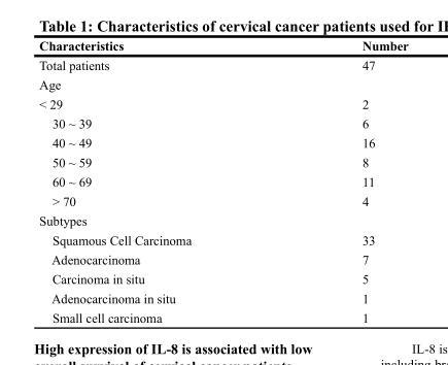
<table><thead><tr><td>Characteristics</td><td>Number</td></tr></thead><tbody><tr><td>Total patients</td><td>47</td></tr><tr><td colspan="2">Age</td></tr><tr><td>&lt; 29</td><td>2</td></tr><tr><td>30 ~ 39</td><td>6</td></tr><tr><td>40 ~ 49</td><td>16</td></tr><tr><td>50 ~ 59</td><td>8</td></tr><tr><td>60 ~ 69</td><td>11</td></tr><tr><td>&gt; 70</td><td>4</td></tr><tr><td colspan="2">Subtypes</td></tr><tr><td>Squamous Cell Carcinoma</td><td>33</td></tr><tr><td>Adenocarcinoma</td><td>7</td></tr><tr><td>Carcinoma in situ</td><td>5</td></tr><tr><td>Adenocarcinoma in situ</td><td>1</td></tr><tr><td>Small cell carcinoma</td><td>1</td></tr></tbody></table>